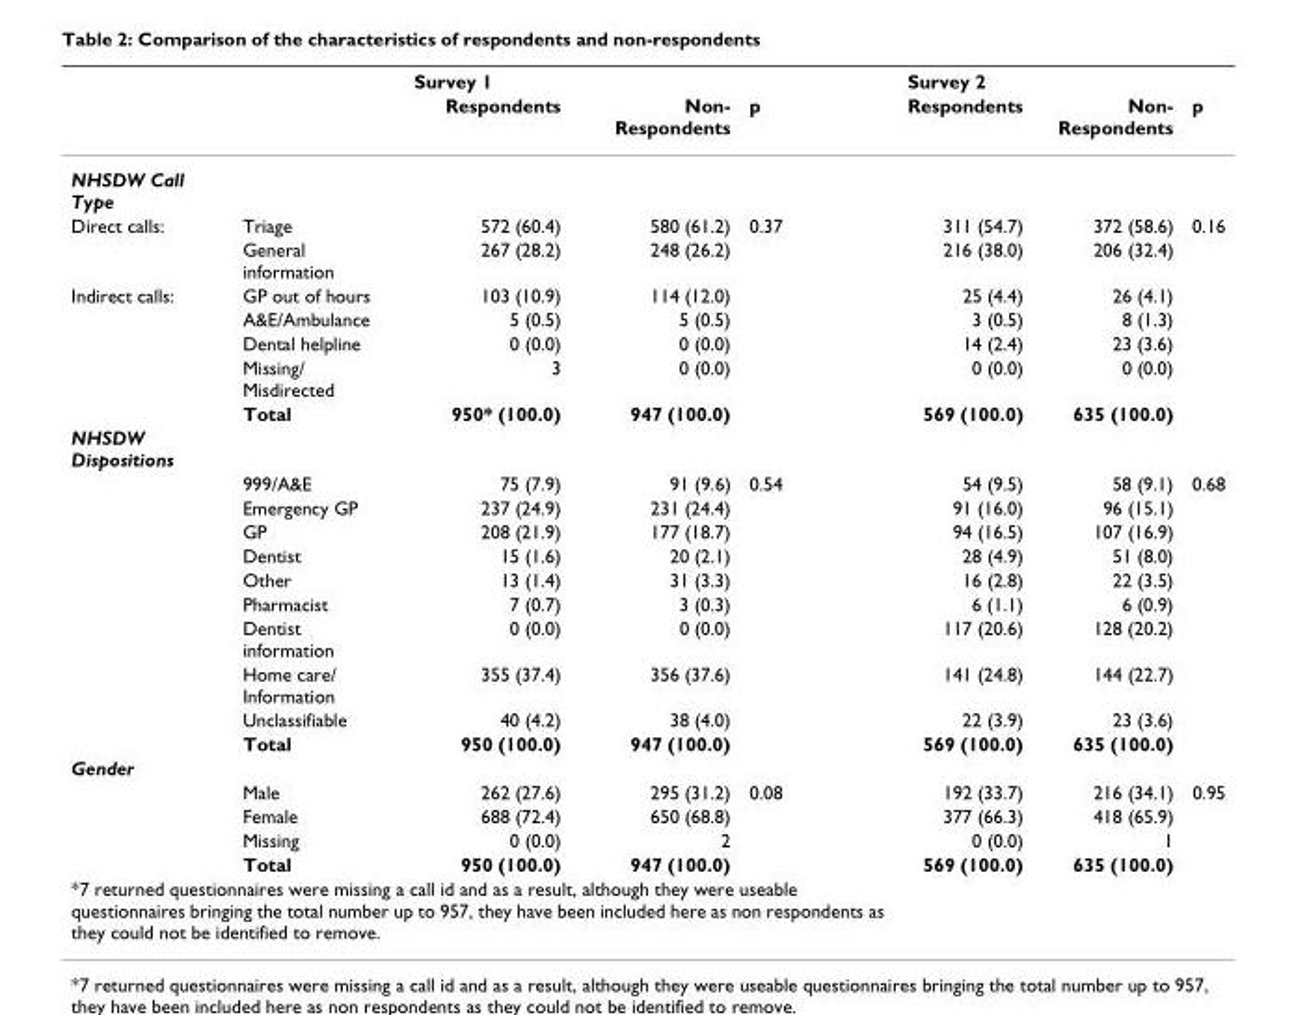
<table><thead><tr><td rowspan="2"></td><td rowspan="2"></td><td colspan="2">Survey 1</td><td rowspan="2">p</td><td colspan="2">Survey 2</td><td rowspan="2">p</td></tr><tr><td>Respondents</td><td>Non- Respondents</td><td>Respondents</td><td>Non- Respondents</td></tr></thead><tbody><tr><td colspan="8">NHSDW Call Type</td></tr><tr><td rowspan="2">Direct calls:</td><td>Triage</td><td>572 (60.4)</td><td>580 (61.2)</td><td>0.37</td><td>311 (54.7)</td><td>372 (58.6)</td><td>0.16</td></tr><tr><td>General information</td><td>267 (28.2)</td><td>248 (26.2)</td><td></td><td>216 (38.0)</td><td>206 (32.4)</td><td></td></tr><tr><td rowspan="5">Indirect calls:</td><td>GP out of hours</td><td>103 (10.9)</td><td>114 (12.0)</td><td></td><td>25 (4.4)</td><td>26 (4.1)</td><td></td></tr><tr><td>A&amp;E/Ambulance</td><td>5 (0.5)</td><td>5 (0.5)</td><td></td><td>3 (0.5)</td><td>8 (1.3)</td><td></td></tr><tr><td>Dental helpline</td><td>0 (0.0)</td><td>0 (0.0)</td><td></td><td>14 (2.4)</td><td>23 (3.6)</td><td></td></tr><tr><td>Missing/ Misdirected</td><td>3</td><td>0 (0.0)</td><td></td><td>0 (0.0)</td><td>0 (0.0)</td><td></td></tr><tr><td>Total</td><td>950* (100.0)</td><td>947 (100.0)</td><td></td><td>569 (100.0)</td><td>635 (100.0)</td><td></td></tr><tr><td colspan="8">NHSDW Dispositions</td></tr><tr><td></td><td>999/A&amp;E</td><td>75 (7.9)</td><td>91 (9.6)</td><td>0.54</td><td>54 (9.5)</td><td>58 (9.1)</td><td>0.68</td></tr><tr><td></td><td>Emergency GP</td><td>237 (24.9)</td><td>231 (24.4)</td><td></td><td>91 (16.0)</td><td>96 (15.1)</td><td></td></tr><tr><td></td><td>GP</td><td>208 (21.9)</td><td>177 (18.7)</td><td></td><td>94 (16.5)</td><td>107 (16.9)</td><td></td></tr><tr><td></td><td>Dentist</td><td>15 (1.6)</td><td>20 (2.1)</td><td></td><td>28 (4.9)</td><td>51 (8.0)</td><td></td></tr><tr><td></td><td>Other</td><td>13 (1.4)</td><td>31 (3.3)</td><td></td><td>16 (2.8)</td><td>22 (3.5)</td><td></td></tr><tr><td></td><td>Pharmacist</td><td>7 (0.7)</td><td>3 (0.3)</td><td></td><td>6 (1.1)</td><td>6 (0.9)</td><td></td></tr><tr><td></td><td>Dentist information</td><td>0 (0.0)</td><td>0 (0.0)</td><td></td><td>117 (20.6)</td><td>128 (20.2)</td><td></td></tr><tr><td></td><td>Home care/ Information</td><td>355 (37.4)</td><td>356 (37.6)</td><td></td><td>141 (24.8)</td><td>144 (22.7)</td><td></td></tr><tr><td></td><td>Unclassifiable</td><td>40 (4.2)</td><td>38 (4.0)</td><td></td><td>22 (3.9)</td><td>23 (3.6)</td><td></td></tr><tr><td></td><td>Total</td><td>950 (100.0)</td><td>947 (100.0)</td><td></td><td>569 (100.0)</td><td>635 (100.0)</td><td></td></tr><tr><td colspan="8">Gender</td></tr><tr><td></td><td>Male</td><td>262 (27.6)</td><td>295 (31.2)</td><td>0.08</td><td>192 (33.7)</td><td>216 (34.1)</td><td>0.95</td></tr><tr><td></td><td>Female</td><td>688 (72.4)</td><td>650 (68.8)</td><td></td><td>377 (66.3)</td><td>418 (65.9)</td><td></td></tr><tr><td></td><td>Missing</td><td>0 (0.0)</td><td>2</td><td></td><td>0 (0.0)</td><td>1</td><td></td></tr><tr><td></td><td>Total</td><td>950 (100.0)</td><td>947 (100.0)</td><td></td><td>569 (100.0)</td><td>635 (100.0)</td><td></td></tr><tr><td colspan="5">*7 returned questionnaires were missing a call id and as a result, although they were useable questionnaires bringing the total number up to 957, they have been included here as non respondents as they could not be identified to remove.</td><td></td><td></td><td></td></tr></tbody></table>